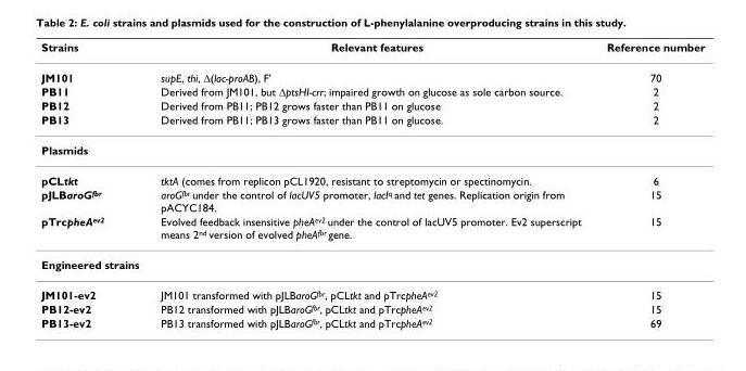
<table><thead><tr><td>Strains</td><td>Relevant features</td><td>Reference number</td></tr></thead><tbody><tr><td>JM101</td><td>supE, thi, ∆(lac-proAB), F&#x27;</td><td>70</td></tr><tr><td>PB11</td><td>Derived from JM101, but ∆ptsHI-crr; impaired growth on glucose as sole carbon source.</td><td>2</td></tr><tr><td>PB12</td><td>Derived from PB11; PB12 grows faster than PB11 on glucose</td><td>2</td></tr><tr><td>PB13</td><td>Derived from PB11; PB13 grows faster than PB11 on glucose.</td><td>2</td></tr><tr><td colspan="3">Plasmids</td></tr><tr><td>pCLtkt</td><td>tktA (comes from replicon pCL1920, resistant to streptomycin or spectinomycin.</td><td>6</td></tr><tr><td>pJLBaroG<sup>fbr</sup></td><td>aroG<sup>fbr</sup> under the control of lacUV5 promoter, lacI<sup>q</sup> and tet genes. Replication origin from pACYC184.</td><td>15</td></tr><tr><td>pTrcpheA<sup>ev2</sup></td><td>Evolved feedback insensitive pheA<sup>ev2</sup> under the control of lacUV5 promoter. Ev2 superscript means 2<sup>nd</sup> version of evolved pheA<sup>fbr</sup> gene.</td><td>15</td></tr><tr><td colspan="3">Engineered strains</td></tr><tr><td>JM101-ev2</td><td>JM101 transformed with pJLBaroG<sup>fbr</sup>, pCLtkt and pTrcpheA<sup>ev2</sup></td><td>15</td></tr><tr><td>PB12-ev2</td><td>PB12 transformed with pJLBaroG<sup>fbr</sup>, pCLtkt and pTrcpheA<sup>ev2</sup></td><td>15</td></tr><tr><td>PB13-ev2</td><td>PB13 transformed with pJLBaroG<sup>fbr</sup>, pCLtkt and pTrcpheA<sup>ev2</sup></td><td>69</td></tr></tbody></table>